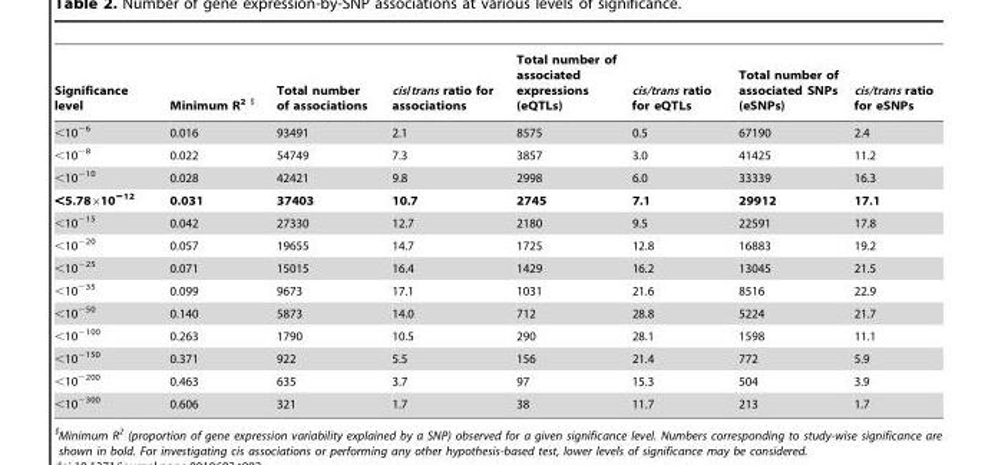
<table><thead><tr><td>Significance level</td><td>Minimum R<sup>2</sup> $</td><td>Total number of associations</td><td>cis/trans ratio for associations</td><td>Total number of associated expressions (eQTLs)</td><td>cis/trans ratio for eQTLs</td><td>Total number of associated SNPs (eSNPs)</td><td>cis/trans ratio for eSNPs</td></tr></thead><tbody><tr><td>&lt;10<sup>−6</sup></td><td>0.016</td><td>93491</td><td>2.1</td><td>8575</td><td>0.5</td><td>67190</td><td>2.4</td></tr><tr><td>&lt;10<sup>−8</sup></td><td>0.022</td><td>54749</td><td>7.3</td><td>3857</td><td>3.0</td><td>41425</td><td>11.2</td></tr><tr><td>&lt;10<sup>−10</sup></td><td>0.028</td><td>42421</td><td>9.8</td><td>2998</td><td>6.0</td><td>33339</td><td>16.3</td></tr><tr><td>&lt;5.78×10<sup>−12</sup></td><td>0.031</td><td>37403</td><td>10.7</td><td>2745</td><td>7.1</td><td>29912</td><td>17.1</td></tr><tr><td>&lt;10<sup>−15</sup></td><td>0.042</td><td>27330</td><td>12.7</td><td>2180</td><td>9.5</td><td>22591</td><td>17.8</td></tr><tr><td>&lt;10<sup>−20</sup></td><td>0.057</td><td>19655</td><td>14.7</td><td>1725</td><td>12.8</td><td>16883</td><td>19.2</td></tr><tr><td>&lt;10<sup>−25</sup></td><td>0.071</td><td>15015</td><td>16.4</td><td>1429</td><td>16.2</td><td>13045</td><td>21.5</td></tr><tr><td>&lt;10<sup>−35</sup></td><td>0.099</td><td>9673</td><td>17.1</td><td>1031</td><td>21.6</td><td>8516</td><td>22.9</td></tr><tr><td>&lt;10<sup>−50</sup></td><td>0.140</td><td>5873</td><td>14.0</td><td>712</td><td>28.8</td><td>5224</td><td>21.7</td></tr><tr><td>&lt;10<sup>−100</sup></td><td>0.263</td><td>1790</td><td>10.5</td><td>290</td><td>28.1</td><td>1598</td><td>11.1</td></tr><tr><td>&lt;10<sup>−150</sup></td><td>0.371</td><td>922</td><td>5.5</td><td>156</td><td>21.4</td><td>772</td><td>5.9</td></tr><tr><td>&lt;10<sup>−200</sup></td><td>0.463</td><td>635</td><td>3.7</td><td>97</td><td>15.3</td><td>504</td><td>3.9</td></tr><tr><td>&lt;10<sup>−300</sup></td><td>0.606</td><td>321</td><td>1.7</td><td>38</td><td>11.7</td><td>213</td><td>1.7</td></tr></tbody></table>